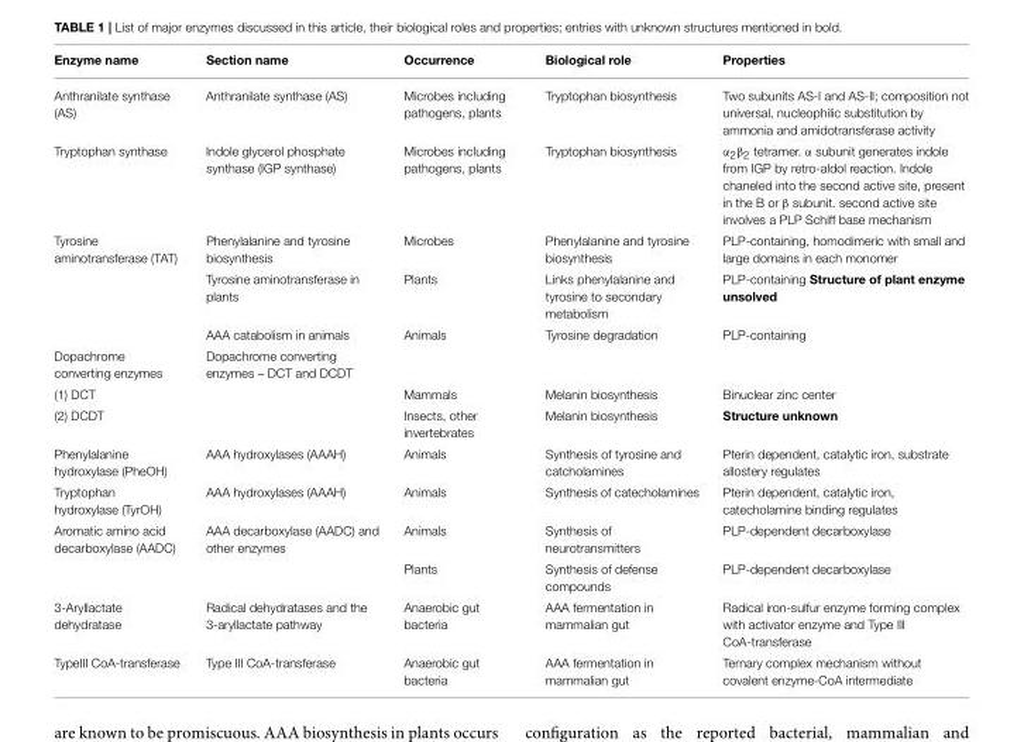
<table><thead><tr><td>Enzyme name</td><td>Section name</td><td>Occurrence</td><td>Biological role</td><td>Properties</td></tr></thead><tbody><tr><td>Anthranilate synthase (AS)</td><td>Anthranilate synthase (AS)</td><td>Microbes including pathogens, plants</td><td>Tryptophan biosynthesis</td><td>Two subunits AS-I and AS-II; composition not universal, nucleophilic substitution by ammonia and amidotransferase activity</td></tr><tr><td>Tryptophan synthase</td><td>Indole glycerol phosphate synthase (IGP synthase)</td><td>Microbes including pathogens, plants</td><td>Tryptophan biosynthesis</td><td>α<sub>2</sub>β<sub>2</sub> tetramer. α subunit generates indole from IGP by retro-aldol reaction. Indole chaneled into the second active site, present in the B or β subunit. second active site involves a PLP Schiff base mechanism</td></tr><tr><td rowspan="3">Tyrosine aminotransferase (TAT)</td><td>Phenylalanine and tyrosine biosynthesis</td><td>Microbes</td><td>Phenylalanine and tyrosine biosynthesis</td><td>PLP-containing, homodimeric with small and large domains in each monomer</td></tr><tr><td>Tyrosine aminotransferase in plants</td><td>Plants</td><td>Links phenylalanine and tyrosine to secondary metabolism</td><td>PLP-containing Structure of plant enzyme unsolved</td></tr><tr><td>AAA catabolism in animals</td><td>Animals</td><td>Tyrosine degradation</td><td>PLP-containing</td></tr><tr><td>Dopachrome converting enzymes</td><td>Dopachrome converting enzymes – DCT and DCDT</td><td></td><td></td><td></td></tr><tr><td>(1) DCT</td><td></td><td>Mammals</td><td>Melanin biosynthesis</td><td>Binuclear zinc center</td></tr><tr><td>(2) DCDT</td><td></td><td>Insects, other invertebrates</td><td>Melanin biosynthesis</td><td>Structure unknown</td></tr><tr><td>Phenylalanine hydroxylase (PheOH)</td><td>AAA hydroxylases (AAAH)</td><td>Animals</td><td>Synthesis of tyrosine and catcholamines</td><td>Pterin dependent, catalytic iron, substrate allostery regulates</td></tr><tr><td>Tryptophan hydroxylase (TyrOH)</td><td>AAA hydroxylases (AAAH)</td><td>Animals</td><td>Synthesis of catecholamines</td><td>Pterin dependent, catalytic iron, catecholamine binding regulates</td></tr><tr><td rowspan="2">Aromatic amino acid decarboxylase (AADC)</td><td>AAA decarboxylase (AADC) and other enzymes</td><td>Animals</td><td>Synthesis of neurotransmitters</td><td>PLP-dependent decarboxylase</td></tr><tr><td></td><td>Plants</td><td>Synthesis of defense compounds</td><td>PLP-dependent decarboxylase</td></tr><tr><td>3-Aryllactate dehydratase</td><td>Radical dehydratases and the 3-aryllactate pathway</td><td>Anaerobic gut bacteria</td><td>AAA fermentation in mammalian gut</td><td>Radical iron-sulfur enzyme forming complex with activator enzyme and Type III CoA-transferase</td></tr><tr><td>TypeIII CoA-transferase</td><td>Type III CoA-transferase</td><td>Anaerobic gut bacteria</td><td>AAA fermentation in mammalian gut</td><td>Ternary complex mechanism without covalent enzyme-CoA intermediate</td></tr></tbody></table>